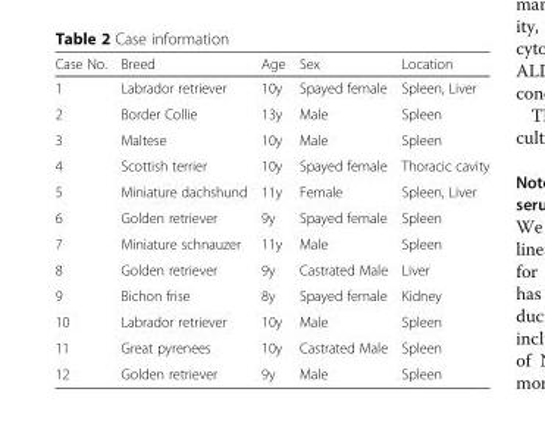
<table><thead><tr><td>Case No.</td><td>Breed</td><td>Age</td><td>Sex</td><td>Location</td></tr></thead><tbody><tr><td>1</td><td>Labrador retriever</td><td>10y</td><td>Spayed female</td><td>Spleen, Liver</td></tr><tr><td>2</td><td>Border Collie</td><td>13y</td><td>Male</td><td>Spleen</td></tr><tr><td>3</td><td>Maltese</td><td>10y</td><td>Male</td><td>Spleen</td></tr><tr><td>4</td><td>Scottish terrier</td><td>10y</td><td>Spayed female</td><td>Thoracic cavity</td></tr><tr><td>5</td><td>Miniature dachshund</td><td>11y</td><td>Female</td><td>Spleen, Liver</td></tr><tr><td>6</td><td>Golden retriever</td><td>9y</td><td>Spayed female</td><td>Spleen</td></tr><tr><td>7</td><td>Miniature schnauzer</td><td>11y</td><td>Male</td><td>Spleen</td></tr><tr><td>8</td><td>Golden retriever</td><td>9y</td><td>Castrated Male</td><td>Liver</td></tr><tr><td>9</td><td>Bichon frise</td><td>8y</td><td>Spayed female</td><td>Kidney</td></tr><tr><td>10</td><td>Labrador retriever</td><td>10y</td><td>Male</td><td>Spleen</td></tr><tr><td>11</td><td>Great pyrenees</td><td>10y</td><td>Castrated Male</td><td>Spleen</td></tr><tr><td>12</td><td>Golden retriever</td><td>9y</td><td>Male</td><td>Spleen</td></tr></tbody></table>